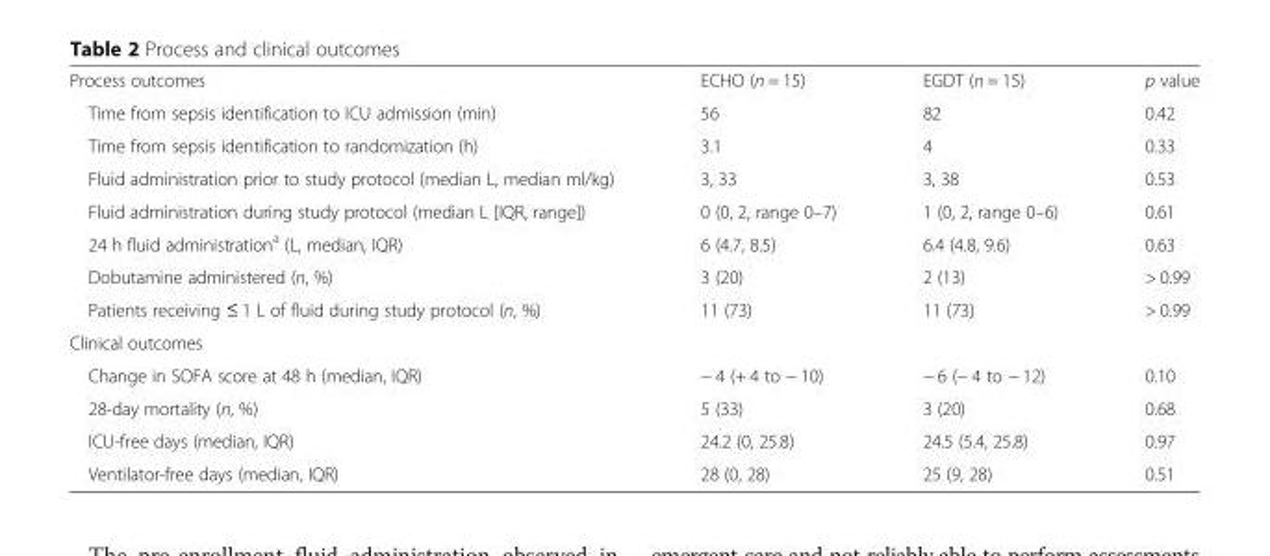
<table><tbody><tr><td>Process outcomes</td><td>ECHO (n = 15)</td><td>EGDT (n = 15)</td><td>p value</td></tr><tr><td>Time from sepsis identification to ICU admission (min)</td><td>56</td><td>82</td><td>0.42</td></tr><tr><td>Time from sepsis identification to randomization (h)</td><td>3.1</td><td>4</td><td>0.33</td></tr><tr><td>Fluid administration prior to study protocol (median L, median ml/kg)</td><td>3, 33</td><td>3, 38</td><td>0.53</td></tr><tr><td>Fluid administration during study protocol (median L [IQR, range])</td><td>0 (0, 2, range 0–7)</td><td>1 (0, 2, range 0–6)</td><td>0.61</td></tr><tr><td>24 h fluid administration<sup>a</sup> (L, median, IQR)</td><td>6 (4.7, 8.5)</td><td>6.4 (4.8, 9.6)</td><td>0.63</td></tr><tr><td>Dobutamine administered (n, %)</td><td>3 (20)</td><td>2 (13)</td><td>&gt; 0.99</td></tr><tr><td>Patients receiving ≤ 1 L of fluid during study protocol (n, %)</td><td>11 (73)</td><td>11 (73)</td><td>&gt; 0.99</td></tr><tr><td colspan="4">Clinical outcomes</td></tr><tr><td>Change in SOFA score at 48 h (median, IQR)</td><td>− 4 (+ 4 to − 10)</td><td>− 6 (− 4 to − 12)</td><td>0.10</td></tr><tr><td>28-day mortality (n, %)</td><td>5 (33)</td><td>3 (20)</td><td>0.68</td></tr><tr><td>ICU-free days (median, IQR)</td><td>24.2 (0, 25.8)</td><td>24.5 (5.4, 25.8)</td><td>0.97</td></tr><tr><td>Ventilator-free days (median, IQR)</td><td>28 (0, 28)</td><td>25 (9, 28)</td><td>0.51</td></tr></tbody></table>